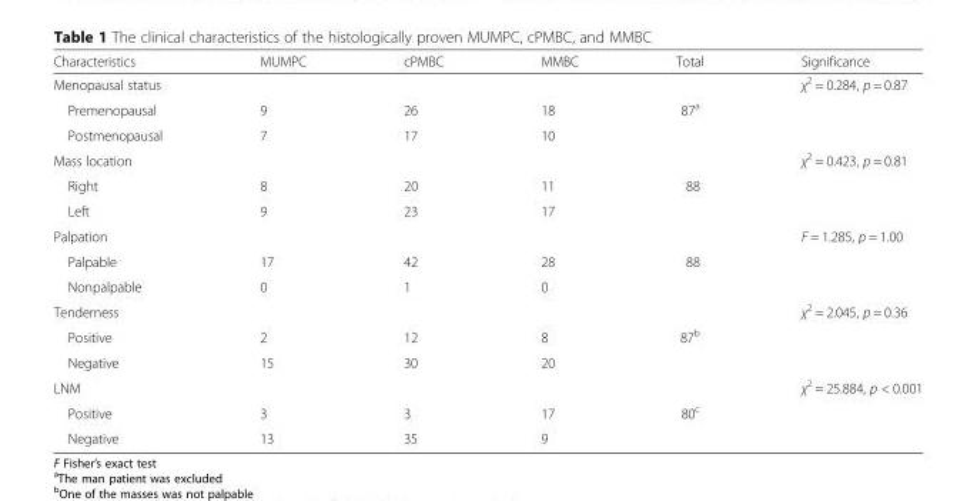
<table><thead><tr><td>Characteristics</td><td>MUMPC</td><td>cPMBC</td><td>MMBC</td><td>Total</td><td>Significance</td></tr></thead><tbody><tr><td>Menopausal status</td><td></td><td></td><td></td><td></td><td>χ<sup>2</sup> = 0.284, p = 0.87</td></tr><tr><td>Premenopausal</td><td>9</td><td>26</td><td>18</td><td rowspan="2">87<sup>a</sup></td><td></td></tr><tr><td>Postmenopausal</td><td>7</td><td>17</td><td>10</td><td></td></tr><tr><td>Mass location</td><td></td><td></td><td></td><td></td><td>χ<sup>2</sup> = 0.423, p = 0.81</td></tr><tr><td>Right</td><td>8</td><td>20</td><td>11</td><td rowspan="2">88</td><td></td></tr><tr><td>Left</td><td>9</td><td>23</td><td>17</td><td></td></tr><tr><td>Palpation</td><td></td><td></td><td></td><td></td><td>F = 1.285, p = 1.00</td></tr><tr><td>Palpable</td><td>17</td><td>42</td><td>28</td><td rowspan="2">88</td><td></td></tr><tr><td>Nonpalpable</td><td>0</td><td>1</td><td>0</td><td></td></tr><tr><td>Tenderness</td><td></td><td></td><td></td><td></td><td>χ<sup>2</sup> = 2.045, p = 0.36</td></tr><tr><td>Positive</td><td>2</td><td>12</td><td>8</td><td rowspan="2">87<sup>b</sup></td><td></td></tr><tr><td>Negative</td><td>15</td><td>30</td><td>20</td><td></td></tr><tr><td>LNM</td><td></td><td></td><td></td><td></td><td>χ<sup>2</sup> = 25.884, p &lt; 0.001</td></tr><tr><td>Positive</td><td>3</td><td>3</td><td>17</td><td rowspan="2">80<sup>c</sup></td><td></td></tr><tr><td>Negative</td><td>13</td><td>35</td><td>9</td><td></td></tr></tbody></table>